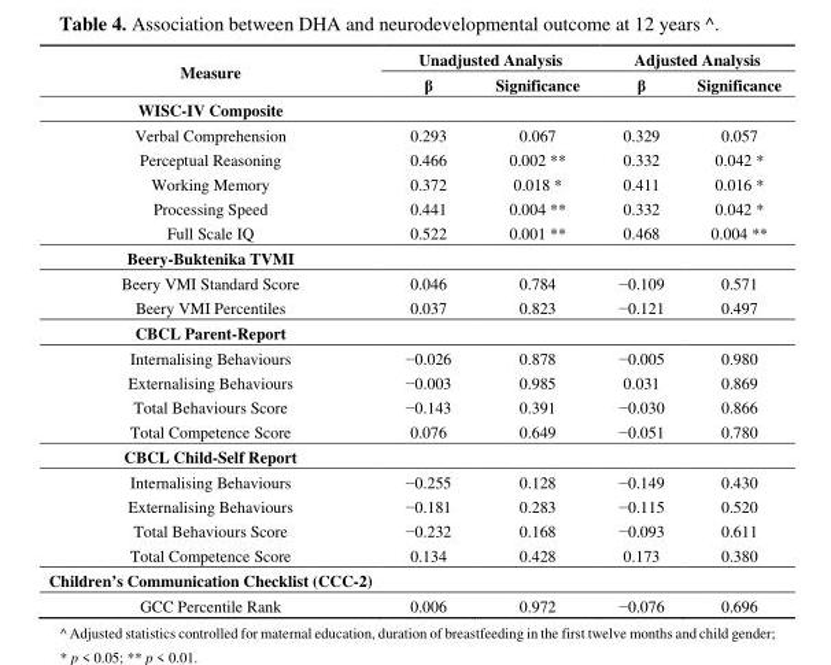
<table><thead><tr><td rowspan="2">Measure</td><td colspan="2">Unadjusted Analysis</td><td colspan="2">Adjusted Analysis</td></tr><tr><td>β</td><td>Significance</td><td>β</td><td>Significance</td></tr></thead><tbody><tr><td colspan="5">WISC-IV Composite</td></tr><tr><td>Verbal Comprehension</td><td>0.293</td><td>0.067</td><td>0.329</td><td>0.057</td></tr><tr><td>Perceptual Reasoning</td><td>0.466</td><td>0.002 **</td><td>0.332</td><td>0.042 *</td></tr><tr><td>Working Memory</td><td>0.372</td><td>0.018 *</td><td>0.411</td><td>0.016 *</td></tr><tr><td>Processing Speed</td><td>0.441</td><td>0.004 **</td><td>0.332</td><td>0.042 *</td></tr><tr><td>Full Scale IQ</td><td>0.522</td><td>0.001 **</td><td>0.468</td><td>0.004 **</td></tr><tr><td colspan="5">Beery-Buktenika TVMI</td></tr><tr><td>Beery VMI Standard Score</td><td>0.046</td><td>0.784</td><td>−0.109</td><td>0.571</td></tr><tr><td>Beery VMI Percentiles</td><td>0.037</td><td>0.823</td><td>−0.121</td><td>0.497</td></tr><tr><td colspan="5">CBCL Parent-Report</td></tr><tr><td>Internalising Behaviours</td><td>−0.026</td><td>0.878</td><td>−0.005</td><td>0.980</td></tr><tr><td>Externalising Behaviours</td><td>−0.003</td><td>0.985</td><td>0.031</td><td>0.869</td></tr><tr><td>Total Behaviours Score</td><td>−0.143</td><td>0.391</td><td>−0.030</td><td>0.866</td></tr><tr><td>Total Competence Score</td><td>0.076</td><td>0.649</td><td>−0.051</td><td>0.780</td></tr><tr><td colspan="5">CBCL Child-Self Report</td></tr><tr><td>Internalising Behaviours</td><td>−0.255</td><td>0.128</td><td>−0.149</td><td>0.430</td></tr><tr><td>Externalising Behaviours</td><td>−0.181</td><td>0.283</td><td>−0.115</td><td>0.520</td></tr><tr><td>Total Behaviours Score</td><td>−0.232</td><td>0.168</td><td>−0.093</td><td>0.611</td></tr><tr><td>Total Competence Score</td><td>0.134</td><td>0.428</td><td>0.173</td><td>0.380</td></tr><tr><td colspan="5">Children’s Communication Checklist (CCC-2)</td></tr><tr><td>GCC Percentile Rank</td><td>0.006</td><td>0.972</td><td>−0.076</td><td>0.696</td></tr></tbody></table>